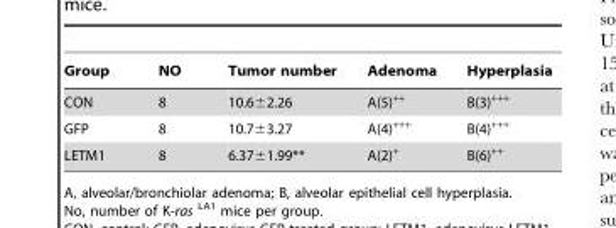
<table><thead><tr><td>Group</td><td>NO</td><td>Tumor number</td><td>Adenoma</td><td>Hyperplasia</td></tr></thead><tbody><tr><td>CON</td><td>8</td><td>10.6±2.26</td><td>A(5)<sup>++</sup></td><td>B(3)<sup>+++</sup></td></tr><tr><td>GFP</td><td>8</td><td>10.7±3.27</td><td>A(4)<sup>+++</sup></td><td>B(4)<sup>+++</sup></td></tr><tr><td>LETM1</td><td>8</td><td>6.37±1.99**</td><td>A(2)<sup>+</sup></td><td>B(6)<sup>++</sup></td></tr></tbody></table>